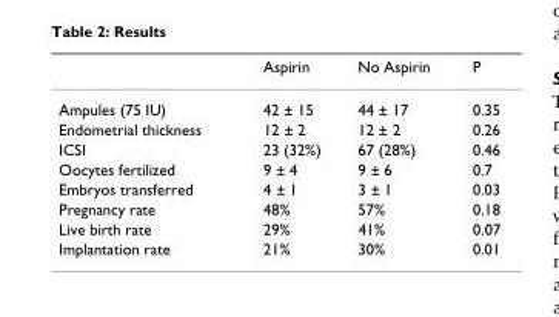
<table><thead><tr><td></td><td>Aspirin</td><td>No Aspirin</td><td>P</td></tr></thead><tbody><tr><td>Ampules (75 IU)</td><td>42 ± 15</td><td>44 ± 17</td><td>0.35</td></tr><tr><td>Endometrial thickness</td><td>12 ± 2</td><td>12 ± 2</td><td>0.26</td></tr><tr><td>ICSI</td><td>23 (32%)</td><td>67 (28%)</td><td>0.46</td></tr><tr><td>Oocytes fertilized</td><td>9 ± 4</td><td>9 ± 6</td><td>0.7</td></tr><tr><td>Embryos transferred</td><td>4 ± 1</td><td>3 ± 1</td><td>0.03</td></tr><tr><td>Pregnancy rate</td><td>48%</td><td>57%</td><td>0.18</td></tr><tr><td>Live birth rate</td><td>29%</td><td>41%</td><td>0.07</td></tr><tr><td>Implantation rate</td><td>21%</td><td>30%</td><td>0.01</td></tr></tbody></table>